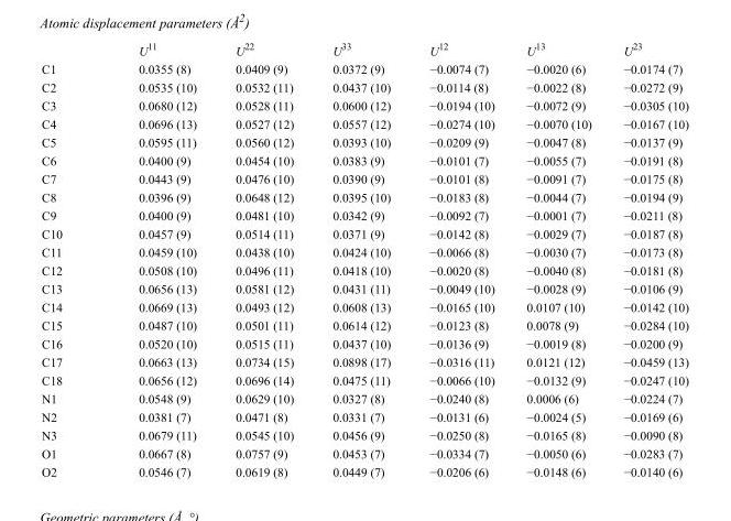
<table><thead><tr><td></td><td>U<sup>11</sup></td><td>U<sup>22</sup></td><td>U<sup>33</sup></td><td>U<sup>12</sup></td><td>U<sup>13</sup></td><td>U<sup>23</sup></td></tr></thead><tbody><tr><td>C1</td><td>0.0355 (8)</td><td>0.0409 (9)</td><td>0.0372 (9)</td><td>−0.0074 (7)</td><td>−0.0020 (6)</td><td>−0.0174 (7)</td></tr><tr><td>C2</td><td>0.0535 (10)</td><td>0.0532 (11)</td><td>0.0437 (10)</td><td>−0.0114 (8)</td><td>−0.0022 (8)</td><td>−0.0272 (9)</td></tr><tr><td>C3</td><td>0.0680 (12)</td><td>0.0528 (11)</td><td>0.0600 (12)</td><td>−0.0194 (10)</td><td>−0.0072 (9)</td><td>−0.0305 (10)</td></tr><tr><td>C4</td><td>0.0696 (13)</td><td>0.0527 (12)</td><td>0.0557 (12)</td><td>−0.0274 (10)</td><td>−0.0070 (10)</td><td>−0.0167 (10)</td></tr><tr><td>C5</td><td>0.0595 (11)</td><td>0.0560 (12)</td><td>0.0393 (10)</td><td>−0.0209 (9)</td><td>−0.0047 (8)</td><td>−0.0137 (9)</td></tr><tr><td>C6</td><td>0.0400 (9)</td><td>0.0454 (10)</td><td>0.0383 (9)</td><td>−0.0101 (7)</td><td>−0.0055 (7)</td><td>−0.0191 (8)</td></tr><tr><td>C7</td><td>0.0443 (9)</td><td>0.0476 (10)</td><td>0.0390 (9)</td><td>−0.0101 (8)</td><td>−0.0091 (7)</td><td>−0.0175 (8)</td></tr><tr><td>C8</td><td>0.0396 (9)</td><td>0.0648 (12)</td><td>0.0395 (10)</td><td>−0.0183 (8)</td><td>−0.0044 (7)</td><td>−0.0194 (9)</td></tr><tr><td>C9</td><td>0.0400 (9)</td><td>0.0481 (10)</td><td>0.0342 (9)</td><td>−0.0092 (7)</td><td>−0.0001 (7)</td><td>−0.0211 (8)</td></tr><tr><td>C10</td><td>0.0457 (9)</td><td>0.0514 (11)</td><td>0.0371 (9)</td><td>−0.0142 (8)</td><td>−0.0029 (7)</td><td>−0.0187 (8)</td></tr><tr><td>C11</td><td>0.0459 (10)</td><td>0.0438 (10)</td><td>0.0424 (10)</td><td>−0.0066 (8)</td><td>−0.0030 (7)</td><td>−0.0173 (8)</td></tr><tr><td>C12</td><td>0.0508 (10)</td><td>0.0496 (11)</td><td>0.0418 (10)</td><td>−0.0020 (8)</td><td>−0.0040 (8)</td><td>−0.0181 (8)</td></tr><tr><td>C13</td><td>0.0656 (13)</td><td>0.0581 (12)</td><td>0.0431 (11)</td><td>−0.0049 (10)</td><td>−0.0028 (9)</td><td>−0.0106 (9)</td></tr><tr><td>C14</td><td>0.0669 (13)</td><td>0.0493 (12)</td><td>0.0608 (13)</td><td>−0.0165 (10)</td><td>0.0107 (10)</td><td>−0.0142 (10)</td></tr><tr><td>C15</td><td>0.0487 (10)</td><td>0.0501 (11)</td><td>0.0614 (12)</td><td>−0.0123 (8)</td><td>0.0078 (9)</td><td>−0.0284 (10)</td></tr><tr><td>C16</td><td>0.0520 (10)</td><td>0.0515 (11)</td><td>0.0437 (10)</td><td>−0.0136 (9)</td><td>−0.0019 (8)</td><td>−0.0200 (9)</td></tr><tr><td>C17</td><td>0.0663 (13)</td><td>0.0734 (15)</td><td>0.0898 (17)</td><td>−0.0316 (11)</td><td>0.0121 (12)</td><td>−0.0459 (13)</td></tr><tr><td>C18</td><td>0.0656 (12)</td><td>0.0696 (14)</td><td>0.0475 (11)</td><td>−0.0066 (10)</td><td>−0.0132 (9)</td><td>−0.0247 (10)</td></tr><tr><td>N1</td><td>0.0548 (9)</td><td>0.0629 (10)</td><td>0.0327 (8)</td><td>−0.0240 (8)</td><td>0.0006 (6)</td><td>−0.0224 (7)</td></tr><tr><td>N2</td><td>0.0381 (7)</td><td>0.0471 (8)</td><td>0.0331 (7)</td><td>−0.0131 (6)</td><td>−0.0024 (5)</td><td>−0.0169 (6)</td></tr><tr><td>N3</td><td>0.0679 (11)</td><td>0.0545 (10)</td><td>0.0456 (9)</td><td>−0.0250 (8)</td><td>−0.0165 (8)</td><td>−0.0090 (8)</td></tr><tr><td>O1</td><td>0.0667 (8)</td><td>0.0757 (9)</td><td>0.0453 (7)</td><td>−0.0334 (7)</td><td>−0.0050 (6)</td><td>−0.0283 (7)</td></tr><tr><td>O2</td><td>0.0546 (7)</td><td>0.0619 (8)</td><td>0.0449 (7)</td><td>−0.0206 (6)</td><td>−0.0148 (6)</td><td>−0.0140 (6)</td></tr></tbody></table>